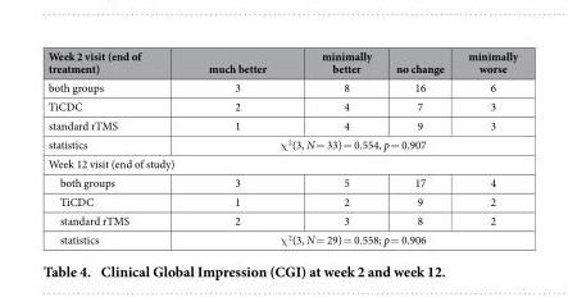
<table><thead><tr><td>Week 2 visit (end of treatment)</td><td>much better</td><td>minimally better</td><td>no change</td><td>minimally worse</td></tr></thead><tbody><tr><td>both groups</td><td>3</td><td>8</td><td>16</td><td>6</td></tr><tr><td>TiCDC</td><td>2</td><td>4</td><td>7</td><td>3</td></tr><tr><td>standard rTMS</td><td>1</td><td>4</td><td>9</td><td>3</td></tr><tr><td>statistics</td><td colspan="4">χ <sup>2</sup>(3, N = 33) = 0.554, p = 0.907</td></tr><tr><td colspan="5">Week 12 visit (end of study)</td></tr><tr><td>both groups</td><td>3</td><td>5</td><td>17</td><td>4</td></tr><tr><td>TiCDC</td><td>1</td><td>2</td><td>9</td><td>2</td></tr><tr><td>standard rTMS</td><td>2</td><td>3</td><td>8</td><td>2</td></tr><tr><td>statistics</td><td colspan="4">χ <sup>2</sup>(3, N = 29) = 0.558; p = 0.906</td></tr></tbody></table>